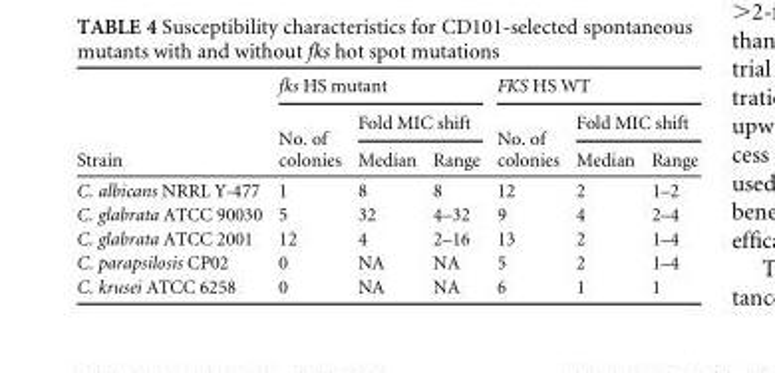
<table><thead><tr><td rowspan="3">Strain</td><td colspan="3">fks HS mutant</td><td colspan="3">FKS HS WT</td></tr><tr><td rowspan="2">No. of colonies</td><td colspan="2">Fold MIC shift</td><td rowspan="2">No. of colonies</td><td colspan="2">Fold MIC shift</td></tr><tr><td>Median</td><td>Range</td><td>Median</td><td>Range</td></tr></thead><tbody><tr><td>C. albicans NRRL Y-477</td><td>1</td><td>8</td><td>8</td><td>12</td><td>2</td><td>1–2</td></tr><tr><td>C. glabrata ATCC 90030</td><td>5</td><td>32</td><td>4–32</td><td>9</td><td>4</td><td>2–4</td></tr><tr><td>C. glabrata ATCC 2001</td><td>12</td><td>4</td><td>2–16</td><td>13</td><td>2</td><td>1–4</td></tr><tr><td>C. parapsilosis CP02</td><td>0</td><td>NA</td><td>NA</td><td>5</td><td>2</td><td>1–4</td></tr><tr><td>C. krusei ATCC 6258</td><td>0</td><td>NA</td><td>NA</td><td>6</td><td>1</td><td>1</td></tr></tbody></table>